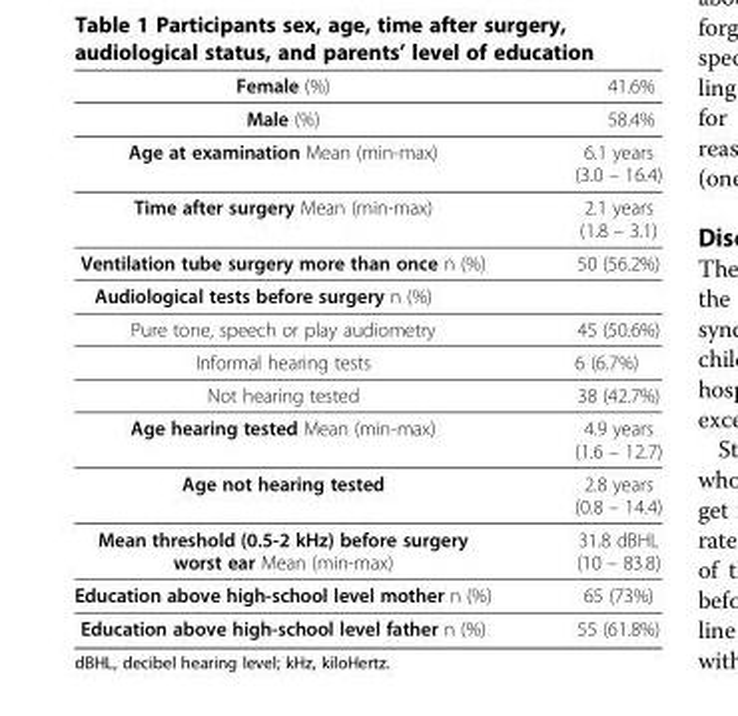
<table><tbody><tr><td>Female (%)</td><td>41.6%</td></tr><tr><td>Male (%)</td><td>58.4%</td></tr><tr><td>Age at examination Mean (min-max)</td><td>6.1 years (3.0 – 16.4)</td></tr><tr><td>Time after surgery Mean (min-max)</td><td>2.1 years (1.8 – 3.1)</td></tr><tr><td>Ventilation tube surgery more than once n (%)</td><td>50 (56.2%)</td></tr><tr><td colspan="2">Audiological tests before surgery n (%)</td></tr><tr><td>Pure tone, speech or play audiometry</td><td>45 (50.6%)</td></tr><tr><td>Informal hearing tests</td><td>6 (6.7%)</td></tr><tr><td>Not hearing tested</td><td>38 (42.7%)</td></tr><tr><td>Age hearing tested Mean (min-max)</td><td>4.9 years (1.6 – 12.7)</td></tr><tr><td>Age not hearing tested</td><td>2.8 years (0.8 – 14.4)</td></tr><tr><td>Mean threshold (0.5-2 kHz) before surgery worst ear Mean (min-max)</td><td>31.8 dBHL (10 – 83.8)</td></tr><tr><td>Education above high-school level mother n (%)</td><td>65 (73%)</td></tr><tr><td>Education above high-school level father n (%)</td><td>55 (61.8%)</td></tr></tbody></table>